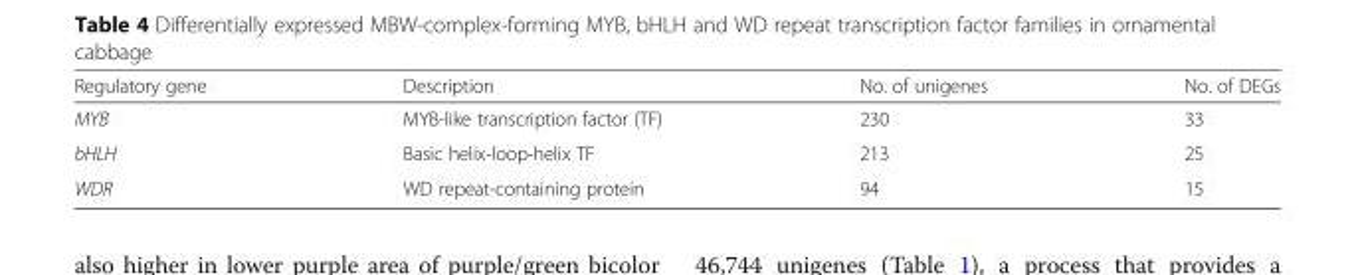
<table><thead><tr><td>Regulatory gene</td><td>Description</td><td>No. of unigenes</td><td>No. of DEGs</td></tr></thead><tbody><tr><td>MYB</td><td>MYB-like transcription factor (TF)</td><td>230</td><td>33</td></tr><tr><td>bHLH</td><td>Basic helix-loop-helix TF</td><td>213</td><td>25</td></tr><tr><td>WDR</td><td>WD repeat-containing protein</td><td>94</td><td>15</td></tr></tbody></table>